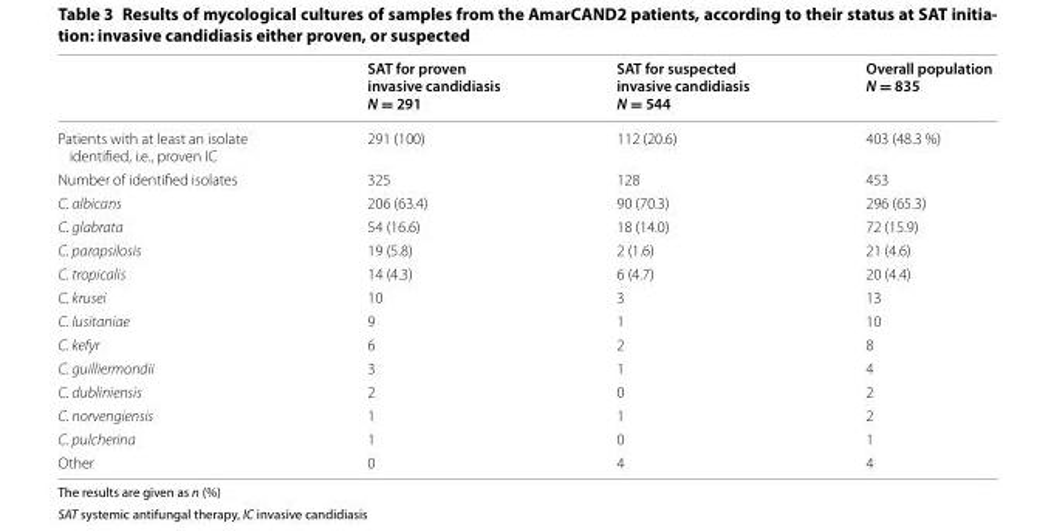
<table><thead><tr><td></td><td>SAT for proven invasive candidiasis N = 291</td><td>SAT for suspected invasive candidiasis N = 544</td><td>Overall population N = 835</td></tr></thead><tbody><tr><td>Patients with at least an isolate identified, i.e., proven IC</td><td>291 (100)</td><td>112 (20.6)</td><td>403 (48.3 %)</td></tr><tr><td>Number of identified isolates</td><td>325</td><td>128</td><td>453</td></tr><tr><td>C. albicans</td><td>206 (63.4)</td><td>90 (70.3)</td><td>296 (65.3)</td></tr><tr><td>C. glabrata</td><td>54 (16.6)</td><td>18 (14.0)</td><td>72 (15.9)</td></tr><tr><td>C. parapsilosis</td><td>19 (5.8)</td><td>2 (1.6)</td><td>21 (4.6)</td></tr><tr><td>C. tropicalis</td><td>14 (4.3)</td><td>6 (4.7)</td><td>20 (4.4)</td></tr><tr><td>C. krusei</td><td>10</td><td>3</td><td>13</td></tr><tr><td>C. lusitaniae</td><td>9</td><td>1</td><td>10</td></tr><tr><td>C. kefyr</td><td>6</td><td>2</td><td>8</td></tr><tr><td>C. guilliermondii</td><td>3</td><td>1</td><td>4</td></tr><tr><td>C. dubliniensis</td><td>2</td><td>0</td><td>2</td></tr><tr><td>C. norvengiensis</td><td>1</td><td>1</td><td>2</td></tr><tr><td>C. pulcherina</td><td>1</td><td>0</td><td>1</td></tr><tr><td>Other</td><td>0</td><td>4</td><td>4</td></tr></tbody></table>